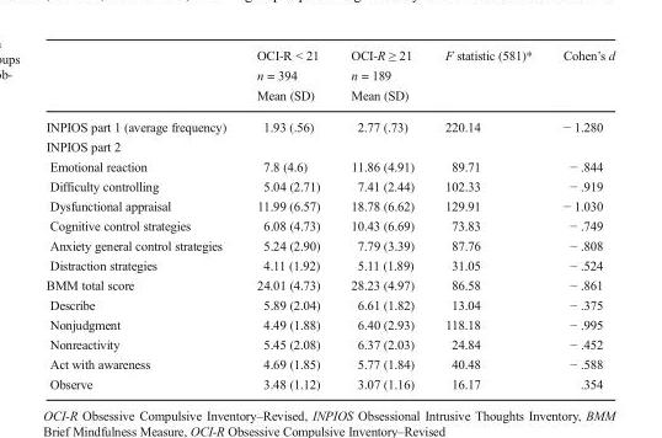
<table><thead><tr><td></td><td>OCI-R ˂ 21 n = 394 Mean (SD)</td><td>OCI-R ≥ 21 n = 189 Mean (SD)</td><td>F statistic (581)*</td><td>Cohen’s d</td></tr></thead><tbody><tr><td>INPIOS part 1 (average frequency)</td><td>1.93 (.56)</td><td>2.77 (.73)</td><td>220.14</td><td>− 1.280</td></tr><tr><td colspan="5">INPIOS part 2</td></tr><tr><td>Emotional reaction</td><td>7.8 (4.6)</td><td>11.86 (4.91)</td><td>89.71</td><td>− .844</td></tr><tr><td>Difficulty controlling</td><td>5.04 (2.71)</td><td>7.41 (2.44)</td><td>102.33</td><td>− .919</td></tr><tr><td>Dysfunctional appraisal</td><td>11.99 (6.57)</td><td>18.78 (6.62)</td><td>129.91</td><td>− 1.030</td></tr><tr><td>Cognitive control strategies</td><td>6.08 (4.73)</td><td>10.43 (6.69)</td><td>73.83</td><td>− .749</td></tr><tr><td>Anxiety general control strategies</td><td>5.24 (2.90)</td><td>7.79 (3.39)</td><td>87.76</td><td>− .808</td></tr><tr><td>Distraction strategies</td><td>4.11 (1.92)</td><td>5.11 (1.89)</td><td>31.05</td><td>− .524</td></tr><tr><td>BMM total score</td><td>24.01 (4.73)</td><td>28.23 (4.97)</td><td>86.58</td><td>− .861</td></tr><tr><td>Describe</td><td>5.89 (2.04)</td><td>6.61 (1.82)</td><td>13.04</td><td>− .375</td></tr><tr><td>Nonjudgment</td><td>4.49 (1.88)</td><td>6.40 (2.93)</td><td>118.18</td><td>− .995</td></tr><tr><td>Nonreactivity</td><td>5.45 (2.08)</td><td>6.37 (2.03)</td><td>24.84</td><td>− .452</td></tr><tr><td>Act with awareness</td><td>4.69 (1.85)</td><td>5.77 (1.84)</td><td>40.48</td><td>− .588</td></tr><tr><td>Observe</td><td>3.48 (1.12)</td><td>3.07 (1.16)</td><td>16.17</td><td>.354</td></tr></tbody></table>